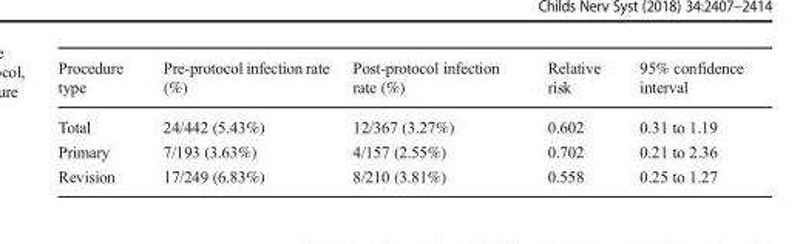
<table><thead><tr><td>Procedure type</td><td>Pre-protocol infection rate (%)</td><td>Post-protocol infection rate (%)</td><td>Relative risk</td><td>95% confidence interval</td></tr></thead><tbody><tr><td>Total</td><td>24/442 (5.43%)</td><td>12/367 (3.27%)</td><td>0.602</td><td>0.31 to 1.19</td></tr><tr><td>Primary</td><td>7/193 (3.63%)</td><td>4/157 (2.55%)</td><td>0.702</td><td>0.21 to 2.36</td></tr><tr><td>Revision</td><td>17/249 (6.83%)</td><td>8/210 (3.81%)</td><td>0.558</td><td>0.25 to 1.27</td></tr></tbody></table>